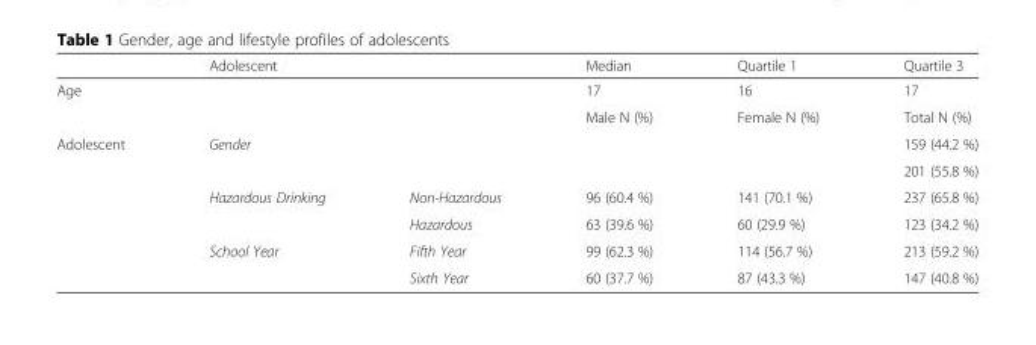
<table><thead><tr><td></td><td>Adolescent</td><td></td><td>Median</td><td>Quartile 1</td><td>Quartile 3</td></tr></thead><tbody><tr><td rowspan="2">Age</td><td></td><td></td><td>17</td><td>16</td><td>17</td></tr><tr><td></td><td></td><td>Male N (%)</td><td>Female N (%)</td><td>Total N (%)</td></tr><tr><td rowspan="6">Adolescent</td><td rowspan="2">Gender</td><td></td><td></td><td></td><td>159 (44.2 %)</td></tr><tr><td></td><td></td><td></td><td>201 (55.8 %)</td></tr><tr><td rowspan="2">Hazardous Drinking</td><td>Non-Hazardous</td><td>96 (60.4 %)</td><td>141 (70.1 %)</td><td>237 (65.8 %)</td></tr><tr><td>Hazardous</td><td>63 (39.6 %)</td><td>60 (29.9 %)</td><td>123 (34.2 %)</td></tr><tr><td rowspan="2">School Year</td><td>Fifth Year</td><td>99 (62.3 %)</td><td>114 (56.7 %)</td><td>213 (59.2 %)</td></tr><tr><td>Sixth Year</td><td>60 (37.7 %)</td><td>87 (43.3 %)</td><td>147 (40.8 %)</td></tr></tbody></table>